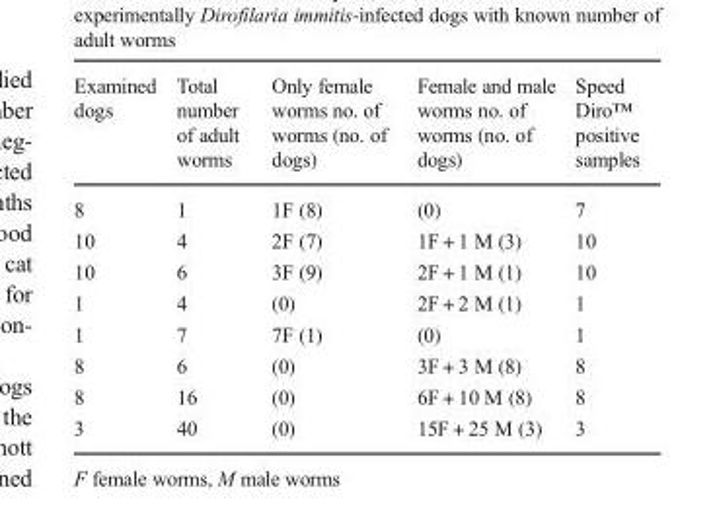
<table><thead><tr><td>Examined dogs</td><td>Total number of adult worms</td><td>Only female worms no. of worms (no. of dogs)</td><td>Female and male worms no. of worms (no. of dogs)</td><td>Speed Diro™ positive samples</td></tr></thead><tbody><tr><td>8</td><td>1</td><td>1F (8)</td><td>(0)</td><td>7</td></tr><tr><td>10</td><td>4</td><td>2F (7)</td><td>1F + 1 M (3)</td><td>10</td></tr><tr><td>10</td><td>6</td><td>3F (9)</td><td>2F + 1 M (1)</td><td>10</td></tr><tr><td>1</td><td>4</td><td>(0)</td><td>2F + 2 M (1)</td><td>1</td></tr><tr><td>1</td><td>7</td><td>7F (1)</td><td>(0)</td><td>1</td></tr><tr><td>8</td><td>6</td><td>(0)</td><td>3F + 3 M (8)</td><td>8</td></tr><tr><td>8</td><td>16</td><td>(0)</td><td>6F + 10 M (8)</td><td>8</td></tr><tr><td>3</td><td>40</td><td>(0)</td><td>15F + 25 M (3)</td><td>3</td></tr></tbody></table>